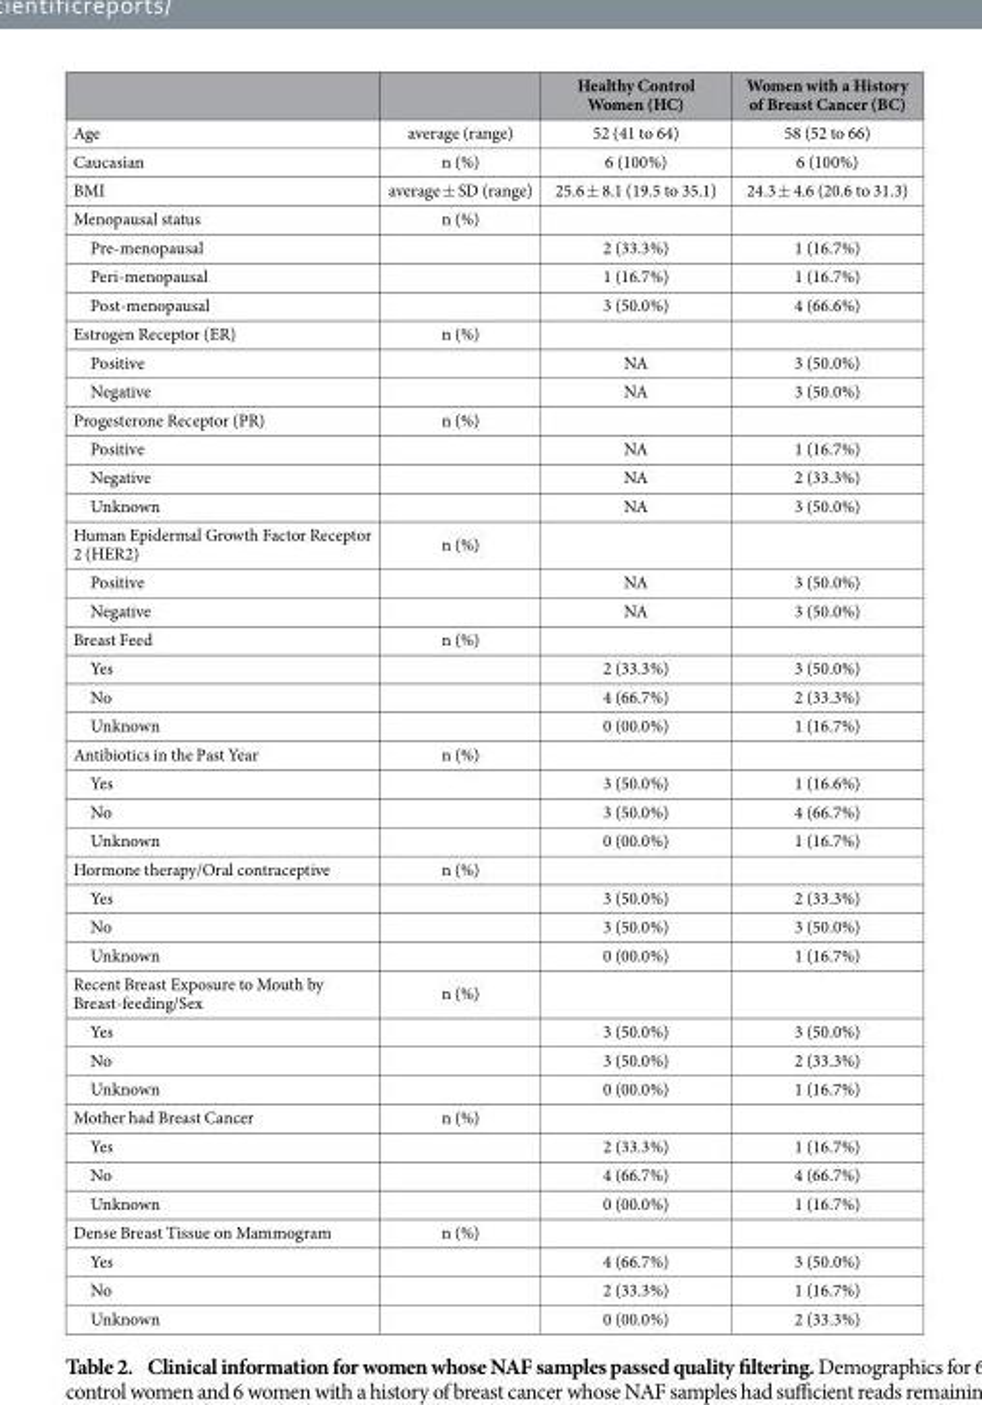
<table><thead><tr><td></td><td></td><td>Healthy Control Women (HC)</td><td>Women with a History of Breast Cancer (BC)</td></tr></thead><tbody><tr><td>Age</td><td>average (range)</td><td>52 (41 to 64)</td><td>58 (52 to 66)</td></tr><tr><td>Caucasian</td><td>n (%)</td><td>6 (100%)</td><td>6 (100%)</td></tr><tr><td>BMI</td><td>average ± SD (range)</td><td>25.6 ± 8.1 (19.5 to 35.1)</td><td>24.3 ± 4.6 (20.6 to 31.3)</td></tr><tr><td>Menopausal status</td><td>n (%)</td><td></td><td></td></tr><tr><td>Pre-menopausal</td><td></td><td>2 (33.3%)</td><td>1 (16.7%)</td></tr><tr><td>Peri-menopausal</td><td></td><td>1 (16.7%)</td><td>1 (16.7%)</td></tr><tr><td>Post-menopausal</td><td></td><td>3 (50.0%)</td><td>4 (66.6%)</td></tr><tr><td>Estrogen Receptor (ER)</td><td>n (%)</td><td></td><td></td></tr><tr><td>Positive</td><td></td><td>NA</td><td>3 (50.0%)</td></tr><tr><td>Negative</td><td></td><td>NA</td><td>3 (50.0%)</td></tr><tr><td>Progesterone Receptor (PR)</td><td>n (%)</td><td></td><td></td></tr><tr><td>Positive</td><td></td><td>NA</td><td>1 (16.7%)</td></tr><tr><td>Negative</td><td></td><td>NA</td><td>2 (33.3%)</td></tr><tr><td>Unknown</td><td></td><td>NA</td><td>3 (50.0%)</td></tr><tr><td>Human Epidermal Growth Factor Receptor 2 (HER2)</td><td>n (%)</td><td></td><td></td></tr><tr><td>Positive</td><td></td><td>NA</td><td>3 (50.0%)</td></tr><tr><td>Negative</td><td></td><td>NA</td><td>3 (50.0%)</td></tr><tr><td>Breast Feed</td><td>n (%)</td><td></td><td></td></tr><tr><td>Yes</td><td></td><td>2 (33.3%)</td><td>3 (50.0%)</td></tr><tr><td>No</td><td></td><td>4 (66.7%)</td><td>2 (33.3%)</td></tr><tr><td>Unknown</td><td></td><td>0 (00.0%)</td><td>1 (16.7%)</td></tr><tr><td>Antibiotics in the Past Year</td><td>n (%)</td><td></td><td></td></tr><tr><td>Yes</td><td></td><td>3 (50.0%)</td><td>1 (16.6%)</td></tr><tr><td>No</td><td></td><td>3 (50.0%)</td><td>4 (66.7%)</td></tr><tr><td>Unknown</td><td></td><td>0 (00.0%)</td><td>1 (16.7%)</td></tr><tr><td>Hormone therapy/Oral contraceptive</td><td>n (%)</td><td></td><td></td></tr><tr><td>Yes</td><td></td><td>3 (50.0%)</td><td>2 (33.3%)</td></tr><tr><td>No</td><td></td><td>3 (50.0%)</td><td>3 (50.0%)</td></tr><tr><td>Unknown</td><td></td><td>0 (00.0%)</td><td>1 (16.7%)</td></tr><tr><td>Recent Breast Exposure to Mouth by Breast-feeding/Sex</td><td>n (%)</td><td></td><td></td></tr><tr><td>Yes</td><td></td><td>3 (50.0%)</td><td>3 (50.0%)</td></tr><tr><td>No</td><td></td><td>3 (50.0%)</td><td>2 (33.3%)</td></tr><tr><td>Unknown</td><td></td><td>0 (00.0%)</td><td>1 (16.7%)</td></tr><tr><td>Mother had Breast Cancer</td><td>n (%)</td><td></td><td></td></tr><tr><td>Yes</td><td></td><td>2 (33.3%)</td><td>1 (16.7%)</td></tr><tr><td>No</td><td></td><td>4 (66.7%)</td><td>4 (66.7%)</td></tr><tr><td>Unknown</td><td></td><td>0 (00.0%)</td><td>1 (16.7%)</td></tr><tr><td>Dense Breast Tissue on Mammogram</td><td>n (%)</td><td></td><td></td></tr><tr><td>Yes</td><td></td><td>4 (66.7%)</td><td>3 (50.0%)</td></tr><tr><td>No</td><td></td><td>2 (33.3%)</td><td>1 (16.7%)</td></tr><tr><td>Unknown</td><td></td><td>0 (00.0%)</td><td>2 (33.3%)</td></tr></tbody></table>